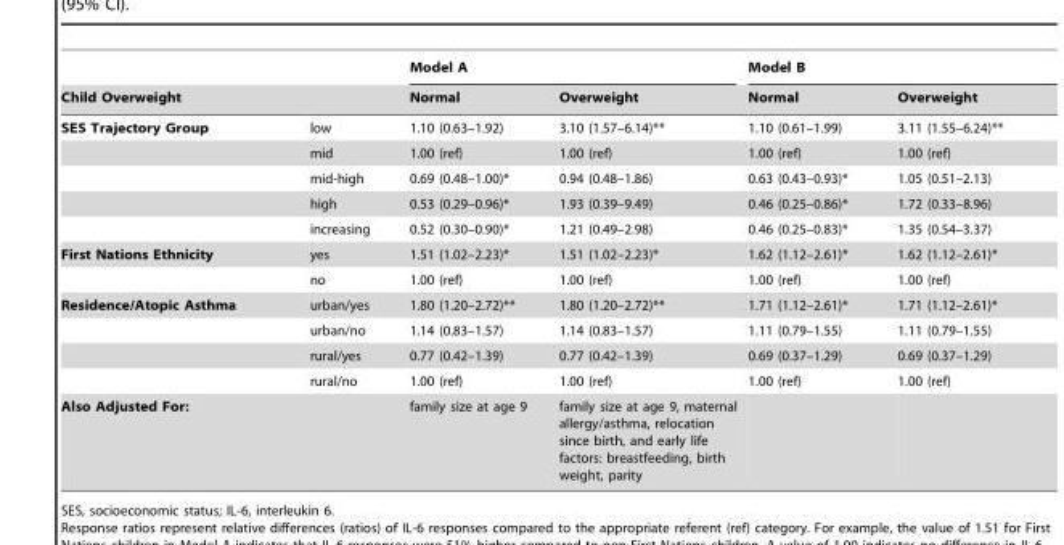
<table><thead><tr><td rowspan="2">Child Overweight</td><td rowspan="2"></td><td colspan="2">Model A</td><td colspan="2">Model B</td></tr><tr><td>Normal</td><td>Overweight</td><td>Normal</td><td>Overweight</td></tr></thead><tbody><tr><td rowspan="5">SES Trajectory Group</td><td>low</td><td>1.10 (0.63–1.92)</td><td>3.10 (1.57–6.14)**</td><td>1.10 (0.61–1.99)</td><td>3.11 (1.55–6.24)**</td></tr><tr><td>mid</td><td>1.00 (ref)</td><td>1.00 (ref)</td><td>1.00 (ref)</td><td>1.00 (ref)</td></tr><tr><td>mid-high</td><td>0.69 (0.48–1.00)*</td><td>0.94 (0.48–1.86)</td><td>0.63 (0.43–0.93)*</td><td>1.05 (0.51–2.13)</td></tr><tr><td>high</td><td>0.53 (0.29–0.96)*</td><td>1.93 (0.39–9.49)</td><td>0.46 (0.25–0.86)*</td><td>1.72 (0.33–8.96)</td></tr><tr><td>increasing</td><td>0.52 (0.30–0.90)*</td><td>1.21 (0.49–2.98)</td><td>0.46 (0.25–0.83)*</td><td>1.35 (0.54–3.37)</td></tr><tr><td rowspan="2">First Nations Ethnicity</td><td>yes</td><td>1.51 (1.02–2.23)*</td><td>1.51 (1.02–2.23)*</td><td>1.62 (1.12–2.61)*</td><td>1.62 (1.12–2.61)*</td></tr><tr><td>no</td><td>1.00 (ref)</td><td>1.00 (ref)</td><td>1.00 (ref)</td><td>1.00 (ref)</td></tr><tr><td rowspan="4">Residence/Atopic Asthma</td><td>urban/yes</td><td>1.80 (1.20–2.72)**</td><td>1.80 (1.20–2.72)**</td><td>1.71 (1.12–2.61)*</td><td>1.71 (1.12–2.61)*</td></tr><tr><td>urban/no</td><td>1.14 (0.83–1.57)</td><td>1.14 (0.83–1.57)</td><td>1.11 (0.79–1.55)</td><td>1.11 (0.79–1.55)</td></tr><tr><td>rural/yes</td><td>0.77 (0.42–1.39)</td><td>0.77 (0.42–1.39)</td><td>0.69 (0.37–1.29)</td><td>0.69 (0.37–1.29)</td></tr><tr><td>rural/no</td><td>1.00 (ref)</td><td>1.00 (ref)</td><td>1.00 (ref)</td><td>1.00 (ref)</td></tr><tr><td>Also Adjusted For:</td><td></td><td>family size at age 9</td><td>family size at age 9, maternal allergy/asthma, relocation since birth, and early life factors: breastfeeding, birth weight, parity</td><td></td><td></td></tr></tbody></table>